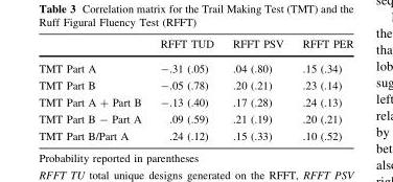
<table><thead><tr><td></td><td>RFFT TUD</td><td>RFFT PSV</td><td>RFFT PER</td></tr></thead><tbody><tr><td>TMT Part A</td><td>-.31 (.05)</td><td>.04 (.80)</td><td>.15 (.34)</td></tr><tr><td>TMT Part B</td><td>-.05 (.78)</td><td>.20 (.21)</td><td>.23 (.14)</td></tr><tr><td>TMT Part A + Part B</td><td>-.13 (.40)</td><td>.17 (.28)</td><td>.24 (.13)</td></tr><tr><td>TMT Part B - Part A</td><td>.09 (.59)</td><td>.21 (.19)</td><td>.20 (.21)</td></tr><tr><td>TMT Part B/Part A</td><td>.24 (.12)</td><td>.15 (.33)</td><td>.10 (.52)</td></tr></tbody></table>